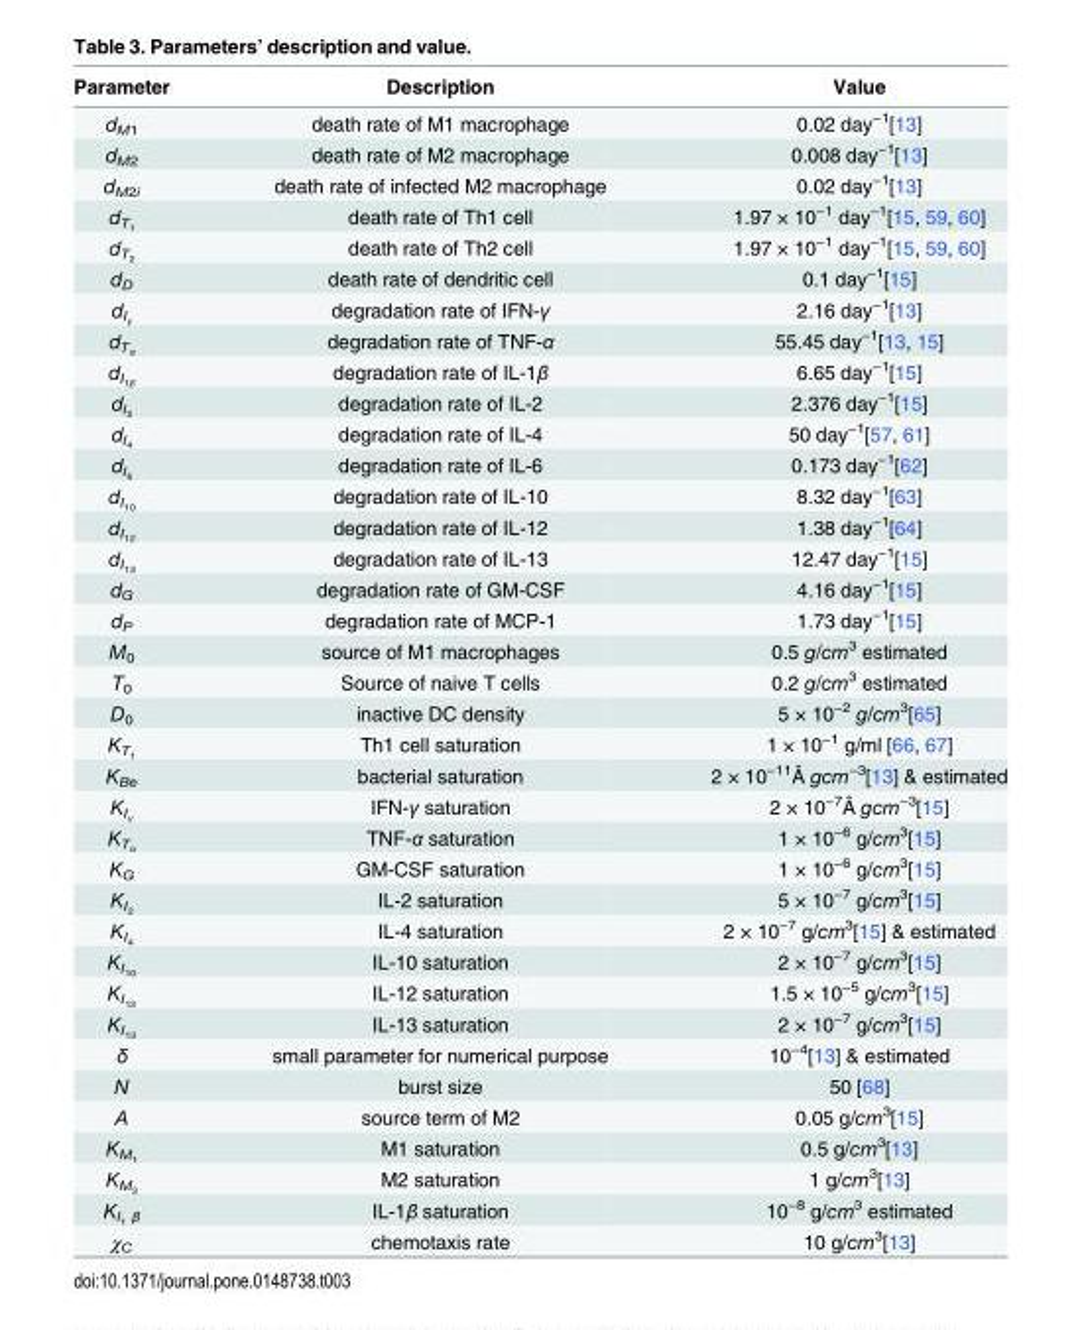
<table><thead><tr><td>Parameter</td><td>Description</td><td>Value</td></tr></thead><tbody><tr><td>d<sub>M1</sub></td><td>death rate of M1 macrophage</td><td>0.02 day<sup>−1</sup>[13]</td></tr><tr><td>d<sub>M2</sub></td><td>death rate of M2 macrophage</td><td>0.008 day<sup>−1</sup>[13]</td></tr><tr><td>d<sub>M2i</sub></td><td>death rate of infected M2 macrophage</td><td>0.02 day<sup>−1</sup>[13]</td></tr><tr><td>dT1</td><td>death rate of Th1 cell</td><td>1.97 × 10<sup>−1</sup> day<sup>−1</sup>[15, 59, 60]</td></tr><tr><td>dT2</td><td>death rate of Th2 cell</td><td>1.97 × 10<sup>−1</sup> day<sup>−1</sup>[15, 59, 60]</td></tr><tr><td>d<sub>D</sub></td><td>death rate of dendritic cell</td><td>0.1 day<sup>−1</sup>[15]</td></tr><tr><td>dIγ</td><td>degradation rate of IFN-γ</td><td>2.16 day<sup>−1</sup>[13]</td></tr><tr><td>dTα</td><td>degradation rate of TNF-α</td><td>55.45 day<sup>−1</sup>[13, 15]</td></tr><tr><td>dI1β</td><td>degradation rate of IL-1β</td><td>6.65 day<sup>−1</sup>[15]</td></tr><tr><td>dI2</td><td>degradation rate of IL-2</td><td>2.376 day<sup>−1</sup>[15]</td></tr><tr><td>dI4</td><td>degradation rate of IL-4</td><td>50 day<sup>−1</sup>[57, 61]</td></tr><tr><td>dI6</td><td>degradation rate of IL-6</td><td>0.173 day<sup>−1</sup>[62]</td></tr><tr><td>dI10</td><td>degradation rate of IL-10</td><td>8.32 day<sup>−1</sup>[63]</td></tr><tr><td>dI12</td><td>degradation rate of IL-12</td><td>1.38 day<sup>−1</sup>[64]</td></tr><tr><td>dI13</td><td>degradation rate of IL-13</td><td>12.47 day<sup>−1</sup>[15]</td></tr><tr><td>d<sub>G</sub></td><td>degradation rate of GM-CSF</td><td>4.16 day<sup>−1</sup>[15]</td></tr><tr><td>d<sub>P</sub></td><td>degradation rate of MCP-1</td><td>1.73 day<sup>−1</sup>[15]</td></tr><tr><td>M<sub>0</sub></td><td>source of M1 macrophages</td><td>0.5 g/cm<sup>3</sup> estimated</td></tr><tr><td>T<sub>0</sub></td><td>Source of naive T cells</td><td>0.2 g/cm<sup>3</sup> estimated</td></tr><tr><td>D<sub>0</sub></td><td>inactive DC density</td><td>5 × 10<sup>−2</sup> g/cm<sup>3</sup>[65]</td></tr><tr><td>KT1</td><td>Th1 cell saturation</td><td>1 × 10<sup>−1</sup> g/ml [66, 67]</td></tr><tr><td>K<sub>Be</sub></td><td>bacterial saturation</td><td>2 × 10<sup>−11</sup>Â gcm<sup>−3</sup>[13] &amp; estimated</td></tr><tr><td>KIγ</td><td>IFN-γ saturation</td><td>2 × 10<sup>−7</sup>Â gcm<sup>−3</sup>[15]</td></tr><tr><td>KTα</td><td>TNF-α saturation</td><td>1 × 10<sup>−6</sup> g/cm<sup>3</sup>[15]</td></tr><tr><td>K<sub>G</sub></td><td>GM-CSF saturation</td><td>1 × 10<sup>−6</sup> g/cm<sup>3</sup>[15]</td></tr><tr><td>KI2</td><td>IL-2 saturation</td><td>5 × 10<sup>−7</sup> g/cm<sup>3</sup>[15]</td></tr><tr><td>KI4</td><td>IL-4 saturation</td><td>2 × 10<sup>−7</sup> g/cm<sup>3</sup>[15] &amp; estimated</td></tr><tr><td>KI10</td><td>IL-10 saturation</td><td>2 × 10<sup>−7</sup> g/cm<sup>3</sup>[15]</td></tr><tr><td>KI12</td><td>IL-12 saturation</td><td>1.5 × 10<sup>−5</sup> g/cm<sup>3</sup>[15]</td></tr><tr><td>KI13</td><td>IL-13 saturation</td><td>2 × 10<sup>−7</sup> g/cm<sup>3</sup>[15]</td></tr><tr><td>δ</td><td>small parameter for numerical purpose</td><td>10<sup>−4</sup>[13] &amp; estimated</td></tr><tr><td>N</td><td>burst size</td><td>50 [68]</td></tr><tr><td>A</td><td>source term of M2</td><td>0.05 g/cm<sup>3</sup>[15]</td></tr><tr><td>KM1</td><td>M1 saturation</td><td>0.5 g/cm<sup>3</sup>[13]</td></tr><tr><td>KM2</td><td>M2 saturation</td><td>1 g/cm<sup>3</sup>[13]</td></tr><tr><td>K<sub>I</sub>1 <sub>β</sub></td><td>IL-1β saturation</td><td>10<sup>−8</sup> g/cm<sup>3</sup> estimated</td></tr><tr><td>χ<sub>C</sub></td><td>chemotaxis rate</td><td>10 g/cm<sup>3</sup>[13]</td></tr></tbody></table>